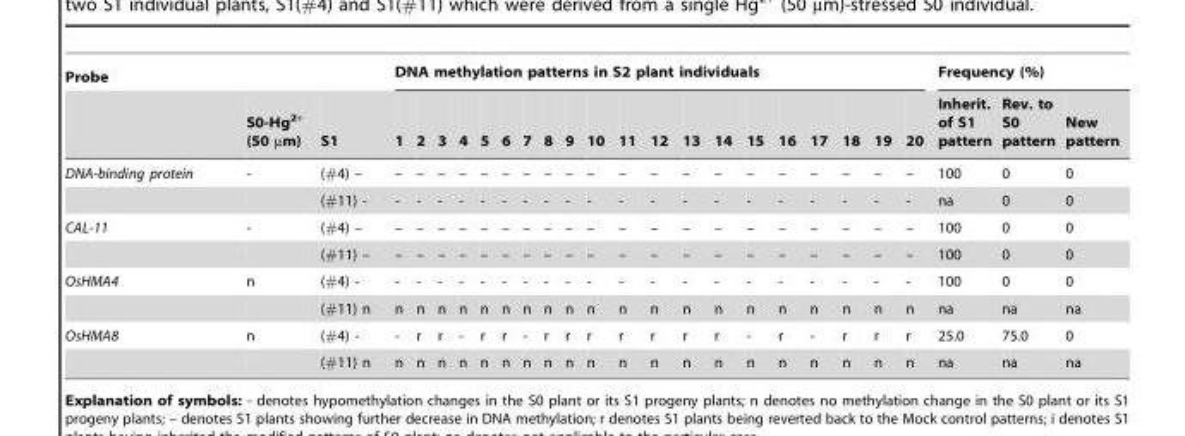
<table><thead><tr><td rowspan="2">Probe</td><td rowspan="2">S0-Hg<sup>2+</sup> (50 µm)</td><td rowspan="2">S1</td><td colspan="20">DNA methylation patterns in S2 plant individuals</td><td colspan="3">Frequency (%)</td></tr><tr><td>1</td><td>2</td><td>3</td><td>4</td><td>5</td><td>6</td><td>7</td><td>8</td><td>9</td><td>10</td><td>11</td><td>12</td><td>13</td><td>14</td><td>15</td><td>16</td><td>17</td><td>18</td><td>19</td><td>20</td><td>Inherit. of S1 pattern</td><td>Rev. to S0 pattern</td><td>New pattern</td></tr></thead><tbody><tr><td rowspan="2">DNA-binding protein</td><td>-</td><td>(#4) –</td><td>–</td><td>–</td><td>–</td><td>–</td><td>–</td><td>–</td><td>–</td><td>–</td><td>–</td><td>–</td><td>–</td><td>–</td><td>–</td><td>–</td><td>–</td><td>–</td><td>–</td><td>–</td><td>–</td><td>–</td><td>100</td><td>0</td><td>0</td></tr><tr><td></td><td>(#11) -</td><td>-</td><td>-</td><td>-</td><td>-</td><td>-</td><td>-</td><td>-</td><td>-</td><td>-</td><td>-</td><td>-</td><td>-</td><td>-</td><td>-</td><td>-</td><td>-</td><td>-</td><td>-</td><td>-</td><td>-</td><td>na</td><td>0</td><td>0</td></tr><tr><td rowspan="2">CAL-11</td><td>-</td><td>(#4) –</td><td>–</td><td>–</td><td>–</td><td>–</td><td>–</td><td>–</td><td>–</td><td>–</td><td>–</td><td>–</td><td>–</td><td>–</td><td>–</td><td>–</td><td>–</td><td>–</td><td>–</td><td>–</td><td>–</td><td>–</td><td>100</td><td>0</td><td>0</td></tr><tr><td></td><td>(#11) –</td><td>–</td><td>–</td><td>–</td><td>–</td><td>–</td><td>–</td><td>–</td><td>–</td><td>–</td><td>–</td><td>–</td><td>–</td><td>–</td><td>–</td><td>–</td><td>–</td><td>–</td><td>–</td><td>–</td><td>–</td><td>100</td><td>0</td><td>0</td></tr><tr><td rowspan="2">OsHMA4</td><td>n</td><td>(#4) -</td><td>-</td><td>-</td><td>-</td><td>-</td><td>-</td><td>-</td><td>-</td><td>-</td><td>-</td><td>-</td><td>-</td><td>-</td><td>-</td><td>-</td><td>-</td><td>-</td><td>-</td><td>-</td><td>-</td><td>-</td><td>100</td><td>0</td><td>0</td></tr><tr><td></td><td>(#11) n</td><td>n</td><td>n</td><td>n</td><td>n</td><td>n</td><td>n</td><td>n</td><td>n</td><td>n</td><td>n</td><td>n</td><td>n</td><td>n</td><td>n</td><td>n</td><td>n</td><td>n</td><td>n</td><td>n</td><td>n</td><td>na</td><td>na</td><td>na</td></tr><tr><td rowspan="2">OsHMA8</td><td>n</td><td>(#4) -</td><td>-</td><td>r</td><td>r</td><td>-</td><td>r</td><td>r</td><td>-</td><td>r</td><td>r</td><td>r</td><td>r</td><td>r</td><td>r</td><td>r</td><td>-</td><td>r</td><td>-</td><td>r</td><td>r</td><td>r</td><td>25.0</td><td>75.0</td><td>0</td></tr><tr><td></td><td>(#11) n</td><td>n</td><td>n</td><td>n</td><td>n</td><td>n</td><td>n</td><td>n</td><td>n</td><td>n</td><td>n</td><td>n</td><td>n</td><td>n</td><td>n</td><td>n</td><td>n</td><td>n</td><td>n</td><td>n</td><td>n</td><td>na</td><td>na</td><td>na</td></tr></tbody></table>